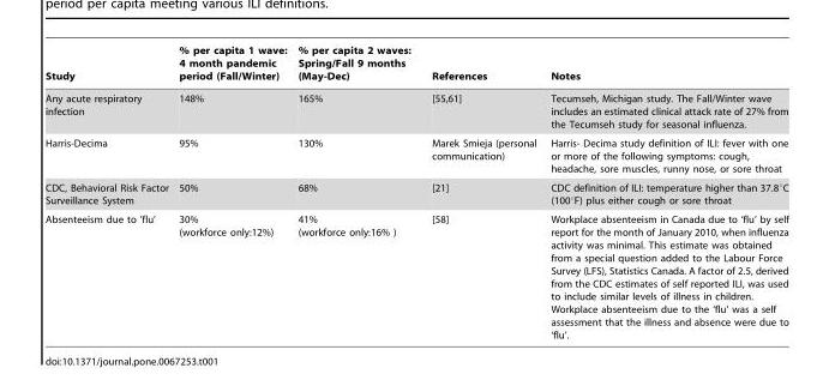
<table><thead><tr><td>Study</td><td>% per capita 1 wave: 4 month pandemic period (Fall/Winter)</td><td>% per capita 2 waves: Spring/Fall 9 months (May-Dec)</td><td>References</td><td>Notes</td></tr></thead><tbody><tr><td>Any acute respiratory infection</td><td>148%</td><td>165%</td><td>[55,61]</td><td>Tecumseh, Michigan study. The Fall/Winter wave includes an estimated clinical attack rate of 27% from the Tecumseh study for seasonal influenza.</td></tr><tr><td>Harris-Decima</td><td>95%</td><td>130%</td><td>Marek Smieja (personal communication)</td><td>Harris- Decima study definition of ILI: fever with one or more of the following symptoms: cough, headache, sore muscles, runny nose, or sore throat</td></tr><tr><td>CDC, Behavioral Risk Factor Surveillance System</td><td>50%</td><td>68%</td><td>[21]</td><td>CDC definition of ILI: temperature higher than 37.8°C (100°F) plus either cough or sore throat</td></tr><tr><td>Absenteeism due to ’flu’</td><td>30% (workforce only:12%)</td><td>41% (workforce only:16% )</td><td>[58]</td><td>Workplace absenteeism in Canada due to ‘flu’ by self report for the month of January 2010, when influenza activity was minimal. This estimate was obtained from a special question added to the Labour Force Survey (LFS), Statistics Canada. A factor of 2.5, derived from the CDC estimates of self reported ILI, was used to include similar levels of illness in children. Workplace absenteeism due to the ‘flu’ was a self assessment that the illness and absence were due to ‘flu’.</td></tr></tbody></table>